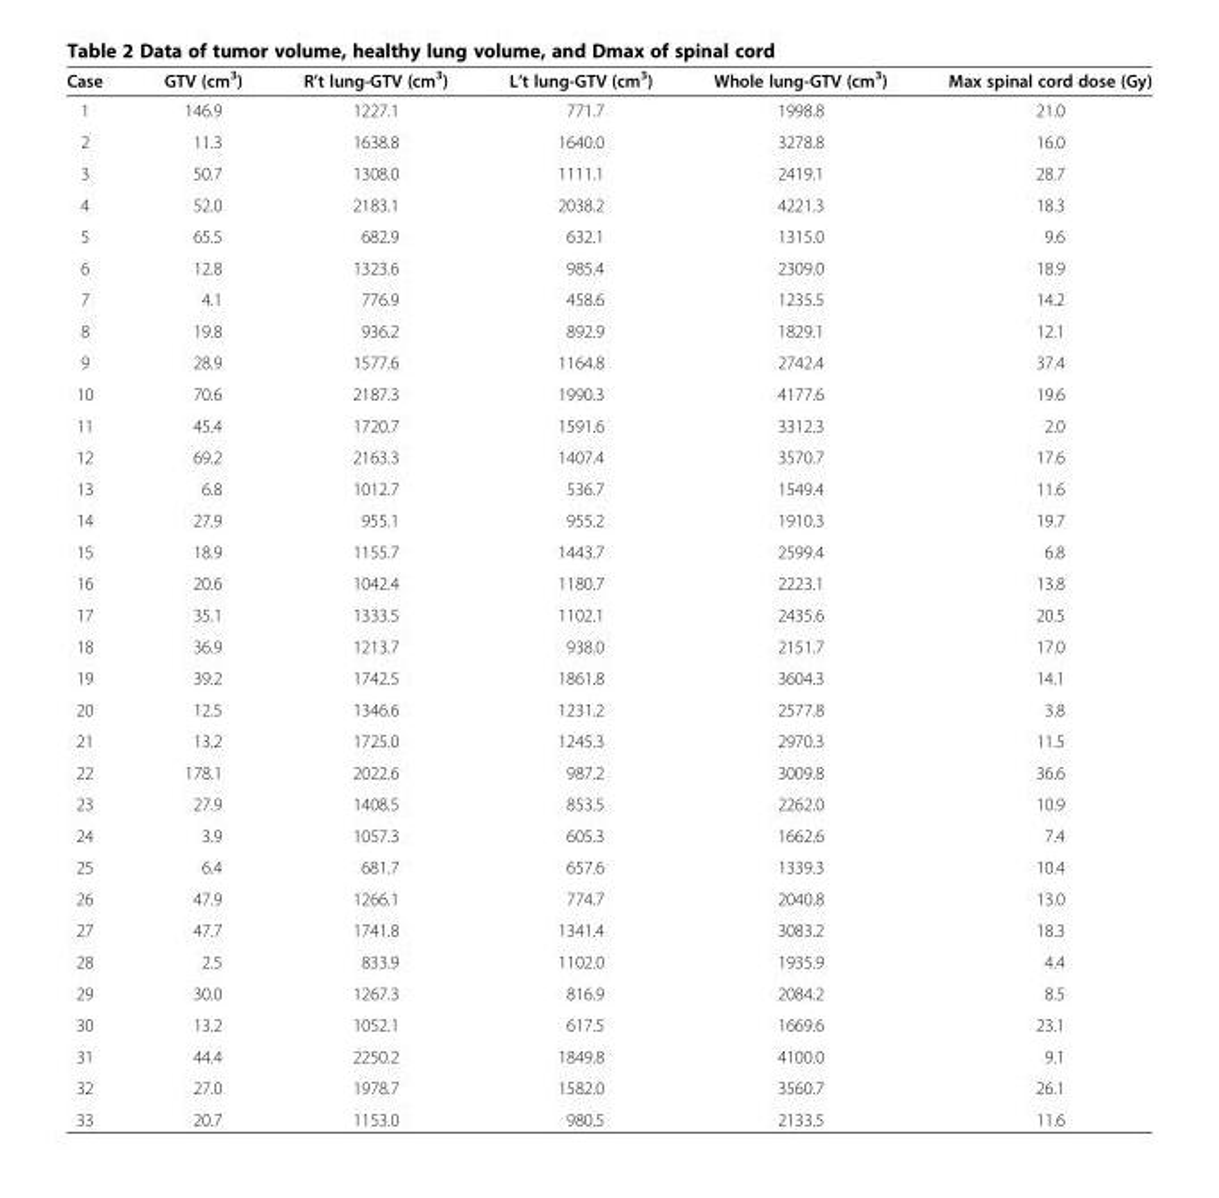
<table><thead><tr><td>Case</td><td>GTV (cm<sup>3</sup>)</td><td>R’t lung-GTV (cm<sup>3</sup>)</td><td>L’t lung-GTV (cm<sup>3</sup>)</td><td>Whole lung-GTV (cm<sup>3</sup>)</td><td>Max spinal cord dose (Gy)</td></tr></thead><tbody><tr><td>1</td><td>146.9</td><td>1227.1</td><td>771.7</td><td>1998.8</td><td>21.0</td></tr><tr><td>2</td><td>11.3</td><td>1638.8</td><td>1640.0</td><td>3278.8</td><td>16.0</td></tr><tr><td>3</td><td>50.7</td><td>1308.0</td><td>1111.1</td><td>2419.1</td><td>28.7</td></tr><tr><td>4</td><td>52.0</td><td>2183.1</td><td>2038.2</td><td>4221.3</td><td>18.3</td></tr><tr><td>5</td><td>65.5</td><td>682.9</td><td>632.1</td><td>1315.0</td><td>9.6</td></tr><tr><td>6</td><td>12.8</td><td>1323.6</td><td>985.4</td><td>2309.0</td><td>18.9</td></tr><tr><td>7</td><td>4.1</td><td>776.9</td><td>458.6</td><td>1235.5</td><td>14.2</td></tr><tr><td>8</td><td>19.8</td><td>936.2</td><td>892.9</td><td>1829.1</td><td>12.1</td></tr><tr><td>9</td><td>28.9</td><td>1577.6</td><td>1164.8</td><td>2742.4</td><td>37.4</td></tr><tr><td>10</td><td>70.6</td><td>2187.3</td><td>1990.3</td><td>4177.6</td><td>19.6</td></tr><tr><td>11</td><td>45.4</td><td>1720.7</td><td>1591.6</td><td>3312.3</td><td>2.0</td></tr><tr><td>12</td><td>69.2</td><td>2163.3</td><td>1407.4</td><td>3570.7</td><td>17.6</td></tr><tr><td>13</td><td>6.8</td><td>1012.7</td><td>536.7</td><td>1549.4</td><td>11.6</td></tr><tr><td>14</td><td>27.9</td><td>955.1</td><td>955.2</td><td>1910.3</td><td>19.7</td></tr><tr><td>15</td><td>18.9</td><td>1155.7</td><td>1443.7</td><td>2599.4</td><td>6.8</td></tr><tr><td>16</td><td>20.6</td><td>1042.4</td><td>1180.7</td><td>2223.1</td><td>13.8</td></tr><tr><td>17</td><td>35.1</td><td>1333.5</td><td>1102.1</td><td>2435.6</td><td>20.5</td></tr><tr><td>18</td><td>36.9</td><td>1213.7</td><td>938.0</td><td>2151.7</td><td>17.0</td></tr><tr><td>19</td><td>39.2</td><td>1742.5</td><td>1861.8</td><td>3604.3</td><td>14.1</td></tr><tr><td>20</td><td>12.5</td><td>1346.6</td><td>1231.2</td><td>2577.8</td><td>3.8</td></tr><tr><td>21</td><td>13.2</td><td>1725.0</td><td>1245.3</td><td>2970.3</td><td>11.5</td></tr><tr><td>22</td><td>178.1</td><td>2022.6</td><td>987.2</td><td>3009.8</td><td>36.6</td></tr><tr><td>23</td><td>27.9</td><td>1408.5</td><td>853.5</td><td>2262.0</td><td>10.9</td></tr><tr><td>24</td><td>3.9</td><td>1057.3</td><td>605.3</td><td>1662.6</td><td>7.4</td></tr><tr><td>25</td><td>6.4</td><td>681.7</td><td>657.6</td><td>1339.3</td><td>10.4</td></tr><tr><td>26</td><td>47.9</td><td>1266.1</td><td>774.7</td><td>2040.8</td><td>13.0</td></tr><tr><td>27</td><td>47.7</td><td>1741.8</td><td>1341.4</td><td>3083.2</td><td>18.3</td></tr><tr><td>28</td><td>2.5</td><td>833.9</td><td>1102.0</td><td>1935.9</td><td>4.4</td></tr><tr><td>29</td><td>30.0</td><td>1267.3</td><td>816.9</td><td>2084.2</td><td>8.5</td></tr><tr><td>30</td><td>13.2</td><td>1052.1</td><td>617.5</td><td>1669.6</td><td>23.1</td></tr><tr><td>31</td><td>44.4</td><td>2250.2</td><td>1849.8</td><td>4100.0</td><td>9.1</td></tr><tr><td>32</td><td>27.0</td><td>1978.7</td><td>1582.0</td><td>3560.7</td><td>26.1</td></tr><tr><td>33</td><td>20.7</td><td>1153.0</td><td>980.5</td><td>2133.5</td><td>11.6</td></tr></tbody></table>